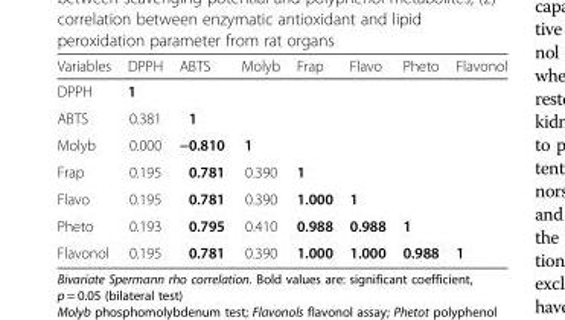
<table><thead><tr><td>Variables</td><td>DPPH</td><td>ABTS</td><td>Molyb</td><td>Frap</td><td>Flavo</td><td>Pheto</td><td>Flavonol</td></tr></thead><tbody><tr><td>DPPH</td><td>1</td><td></td><td></td><td></td><td></td><td></td><td></td></tr><tr><td>ABTS</td><td>0.381</td><td>1</td><td></td><td></td><td></td><td></td><td></td></tr><tr><td>Molyb</td><td>0.000</td><td>−0.810</td><td>1</td><td></td><td></td><td></td><td></td></tr><tr><td>Frap</td><td>0.195</td><td>0.781</td><td>0.390</td><td>1</td><td></td><td></td><td></td></tr><tr><td>Flavo</td><td>0.195</td><td>0.781</td><td>0.390</td><td>1.000</td><td>1</td><td></td><td></td></tr><tr><td>Pheto</td><td>0.193</td><td>0.795</td><td>0.410</td><td>0.988</td><td>0.988</td><td>1</td><td></td></tr><tr><td>Flavonol</td><td>0.195</td><td>0.781</td><td>0.390</td><td>1.000</td><td>1.000</td><td>0.988</td><td>1</td></tr></tbody></table>